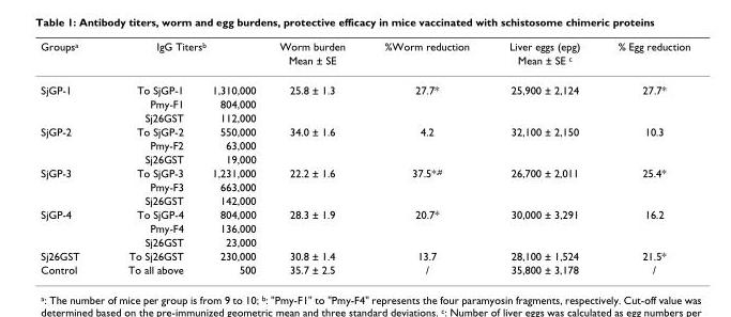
<table><thead><tr><td rowspan="2">Groups<sup>a</sup></td><td colspan="2">IgG Titers<sup>b</sup></td><td rowspan="2">Worm burden Mean ± SE</td><td rowspan="2">%Worm reduction</td><td rowspan="2">Liver eggs (epg) Mean ± SE <sup>c</sup></td><td rowspan="2">% Egg reduction</td></tr><tr><td></td><td></td></tr></thead><tbody><tr><td rowspan="3">SjGP-1</td><td>To SjGP-1</td><td>1,310,000</td><td>25.8 ± 1.3</td><td>27.7*</td><td>25,900 ± 2,124</td><td>27.7*</td></tr><tr><td>Pmy-F1</td><td>804,000</td><td></td><td></td><td></td><td></td></tr><tr><td>Sj26GST</td><td>112,000</td><td></td><td></td><td></td><td></td></tr><tr><td rowspan="3">SjGP-2</td><td>To SjGP-2</td><td>550,000</td><td>34.0 ± 1.6</td><td>4.2</td><td>32,100 ± 2,150</td><td>10.3</td></tr><tr><td>Pmy-F2</td><td>63,000</td><td></td><td></td><td></td><td></td></tr><tr><td>Sj26GST</td><td>19,000</td><td></td><td></td><td></td><td></td></tr><tr><td rowspan="3">SjGP-3</td><td>To SjGP-3</td><td>1,231,000</td><td>22.2 ± 1.6</td><td>37.5*<sup>,#</sup></td><td>26,700 ± 2,011</td><td>25.4*</td></tr><tr><td>Pmy-F3</td><td>663,000</td><td></td><td></td><td></td><td></td></tr><tr><td>Sj26GST</td><td>142,000</td><td></td><td></td><td></td><td></td></tr><tr><td rowspan="3">SjGP-4</td><td>To SjGP-4</td><td>804,000</td><td>28.3 ± 1.9</td><td>20.7*</td><td>30,000 ± 3,291</td><td>16.2</td></tr><tr><td>Pmy-F4</td><td>136,000</td><td></td><td></td><td></td><td></td></tr><tr><td>Sj26GST</td><td>23,000</td><td></td><td></td><td></td><td></td></tr><tr><td>Sj26GST</td><td>To Sj26GST</td><td>230,000</td><td>30.8 ± 1.4</td><td>13.7</td><td>28,100 ± 1,524</td><td>21.5*</td></tr><tr><td>Control</td><td>To all above</td><td>500</td><td>35.7 ± 2.5</td><td>/</td><td>35,800 ± 3,178</td><td>/</td></tr></tbody></table>